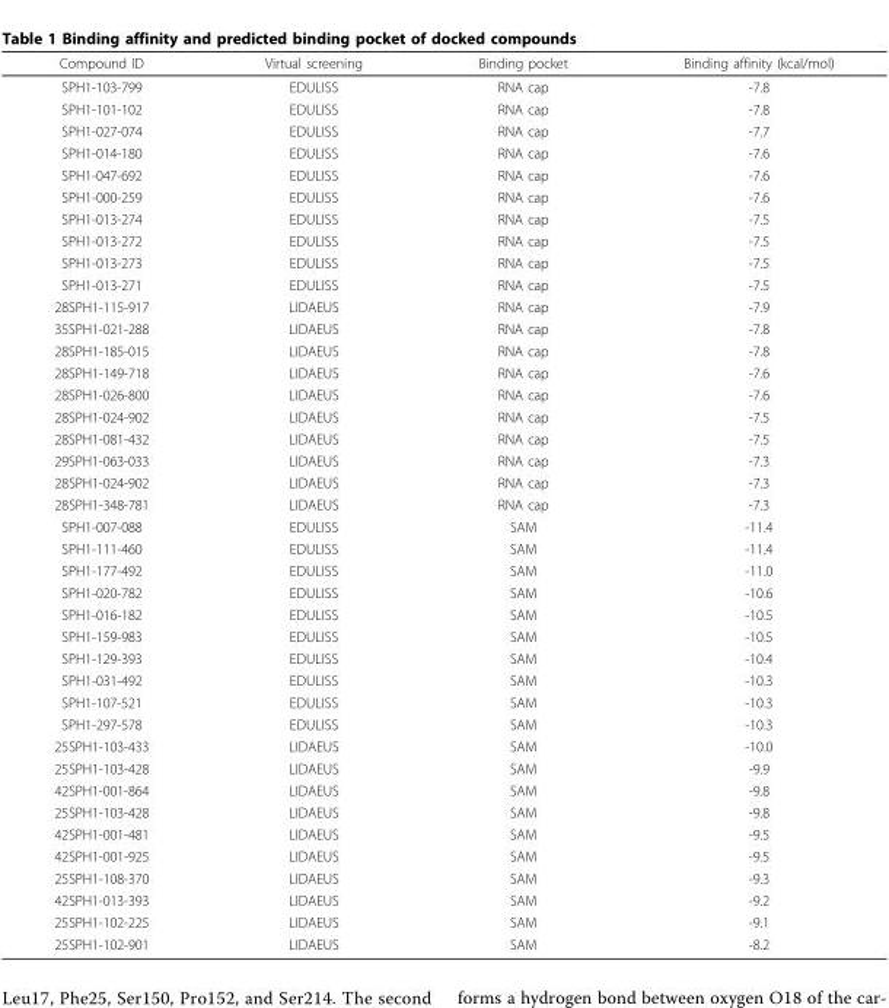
<table><thead><tr><td>Compound ID</td><td>Virtual screening</td><td>Binding pocket</td><td>Binding affinity (kcal/mol)</td></tr></thead><tbody><tr><td>SPH1-103-799</td><td>EDULISS</td><td>RNA cap</td><td>-7.8</td></tr><tr><td>SPH1-101-102</td><td>EDULISS</td><td>RNA cap</td><td>-7.8</td></tr><tr><td>SPH1-027-074</td><td>EDULISS</td><td>RNA cap</td><td>-7.7</td></tr><tr><td>SPH1-014-180</td><td>EDULISS</td><td>RNA cap</td><td>-7.6</td></tr><tr><td>SPH1-047-692</td><td>EDULISS</td><td>RNA cap</td><td>-7.6</td></tr><tr><td>SPH1-000-259</td><td>EDULISS</td><td>RNA cap</td><td>-7.6</td></tr><tr><td>SPH1-013-274</td><td>EDULISS</td><td>RNA cap</td><td>-7.5</td></tr><tr><td>SPH1-013-272</td><td>EDULISS</td><td>RNA cap</td><td>-7.5</td></tr><tr><td>SPH1-013-273</td><td>EDULISS</td><td>RNA cap</td><td>-7.5</td></tr><tr><td>SPH1-013-271</td><td>EDULISS</td><td>RNA cap</td><td>-7.5</td></tr><tr><td>28SPH1-115-917</td><td>LIDAEUS</td><td>RNA cap</td><td>-7.9</td></tr><tr><td>35SPH1-021-288</td><td>LIDAEUS</td><td>RNA cap</td><td>-7.8</td></tr><tr><td>28SPH1-185-015</td><td>LIDAEUS</td><td>RNA cap</td><td>-7.8</td></tr><tr><td>28SPH1-149-718</td><td>LIDAEUS</td><td>RNA cap</td><td>-7.6</td></tr><tr><td>28SPH1-026-800</td><td>LIDAEUS</td><td>RNA cap</td><td>-7.6</td></tr><tr><td>28SPH1-024-902</td><td>LIDAEUS</td><td>RNA cap</td><td>-7.5</td></tr><tr><td>28SPH1-081-432</td><td>LIDAEUS</td><td>RNA cap</td><td>-7.5</td></tr><tr><td>29SPH1-063-033</td><td>LIDAEUS</td><td>RNA cap</td><td>-7.3</td></tr><tr><td>28SPH1-024-902</td><td>LIDAEUS</td><td>RNA cap</td><td>-7.3</td></tr><tr><td>28SPH1-348-781</td><td>LIDAEUS</td><td>RNA cap</td><td>-7.3</td></tr><tr><td>SPH1-007-088</td><td>EDULISS</td><td>SAM</td><td>-11.4</td></tr><tr><td>SPH1-111-460</td><td>EDULISS</td><td>SAM</td><td>-11.4</td></tr><tr><td>SPH1-177-492</td><td>EDULISS</td><td>SAM</td><td>-11.0</td></tr><tr><td>SPH1-020-782</td><td>EDULISS</td><td>SAM</td><td>-10.6</td></tr><tr><td>SPH1-016-182</td><td>EDULISS</td><td>SAM</td><td>-10.5</td></tr><tr><td>SPH1-159-983</td><td>EDULISS</td><td>SAM</td><td>-10.5</td></tr><tr><td>SPH1-129-393</td><td>EDULISS</td><td>SAM</td><td>-10.4</td></tr><tr><td>SPH1-031-492</td><td>EDULISS</td><td>SAM</td><td>-10.3</td></tr><tr><td>SPH1-107-521</td><td>EDULISS</td><td>SAM</td><td>-10.3</td></tr><tr><td>SPH1-297-578</td><td>EDULISS</td><td>SAM</td><td>-10.3</td></tr><tr><td>25SPH1-103-433</td><td>LIDAEUS</td><td>SAM</td><td>-10.0</td></tr><tr><td>25SPH1-103-428</td><td>LIDAEUS</td><td>SAM</td><td>-9.9</td></tr><tr><td>42SPH1-001-864</td><td>LIDAEUS</td><td>SAM</td><td>-9.8</td></tr><tr><td>25SPH1-103-428</td><td>LIDAEUS</td><td>SAM</td><td>-9.8</td></tr><tr><td>42SPH1-001-481</td><td>LIDAEUS</td><td>SAM</td><td>-9.5</td></tr><tr><td>42SPH1-001-925</td><td>LIDAEUS</td><td>SAM</td><td>-9.5</td></tr><tr><td>25SPH1-108-370</td><td>LIDAEUS</td><td>SAM</td><td>-9.3</td></tr><tr><td>42SPH1-013-393</td><td>LIDAEUS</td><td>SAM</td><td>-9.2</td></tr><tr><td>25SPH1-102-225</td><td>LIDAEUS</td><td>SAM</td><td>-9.1</td></tr><tr><td>25SPH1-102-901</td><td>LIDAEUS</td><td>SAM</td><td>-8.2</td></tr></tbody></table>